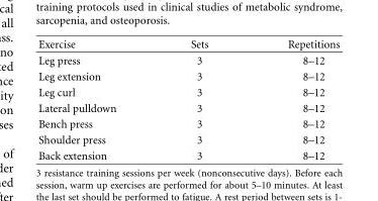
<table><thead><tr><td>Exercise</td><td>Sets</td><td>Repetitions</td></tr></thead><tbody><tr><td>Leg press</td><td>3</td><td>8–12</td></tr><tr><td>Leg extension</td><td>3</td><td>8–12</td></tr><tr><td>Leg curl</td><td>3</td><td>8–12</td></tr><tr><td>Lateral pulldown</td><td>3</td><td>8–12</td></tr><tr><td>Bench press</td><td>3</td><td>8–12</td></tr><tr><td>Shoulder press</td><td>3</td><td>8–12</td></tr><tr><td>Back extension</td><td>3</td><td>8–12</td></tr></tbody></table>